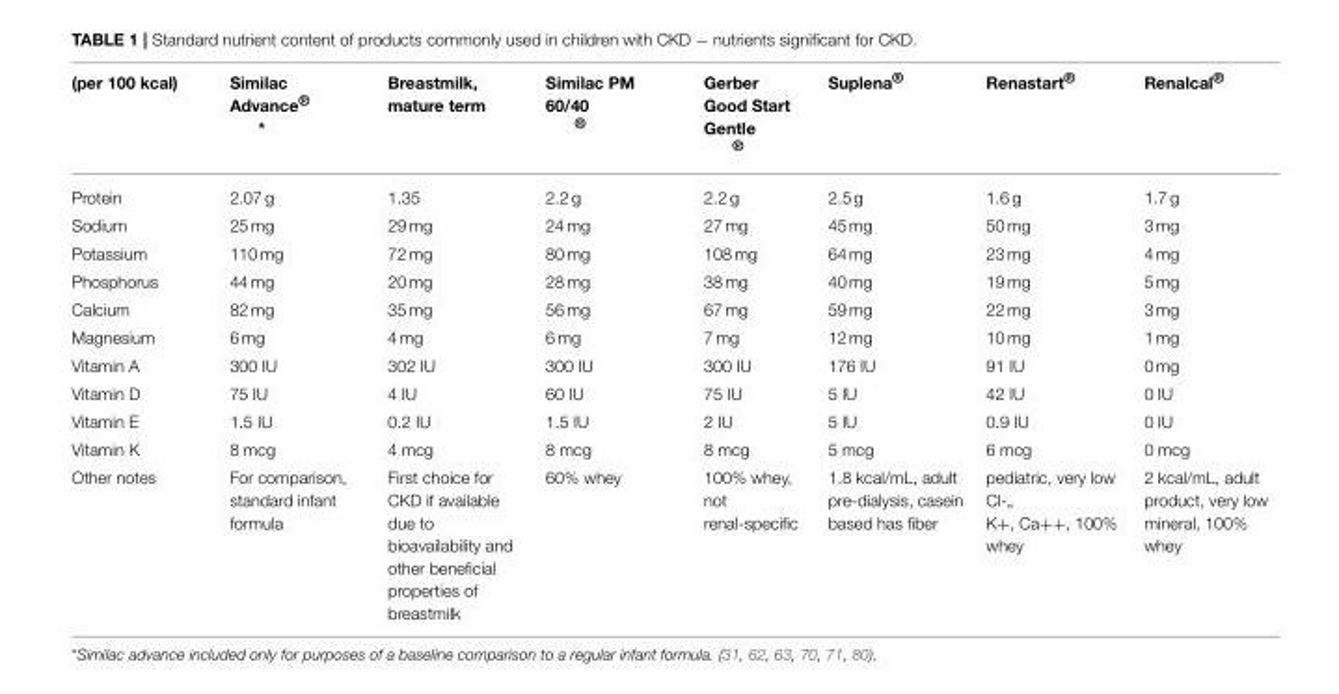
<table><thead><tr><td>(per 100 kcal)</td><td>Similac Advance® *</td><td>Breastmilk, mature term</td><td>Similac PM 60/40 ®</td><td>Gerber Good Start Gentle ®</td><td>Suplena®</td><td>Renastart®</td><td>Renalcal®</td></tr></thead><tbody><tr><td>Protein</td><td>2.07 g</td><td>1.35</td><td>2.2 g</td><td>2.2 g</td><td>2.5 g</td><td>1.6 g</td><td>1.7 g</td></tr><tr><td>Sodium</td><td>25 mg</td><td>29 mg</td><td>24 mg</td><td>27 mg</td><td>45 mg</td><td>50 mg</td><td>3 mg</td></tr><tr><td>Potassium</td><td>110 mg</td><td>72 mg</td><td>80 mg</td><td>108 mg</td><td>64 mg</td><td>23 mg</td><td>4 mg</td></tr><tr><td>Phosphorus</td><td>44 mg</td><td>20 mg</td><td>28 mg</td><td>38 mg</td><td>40 mg</td><td>19 mg</td><td>5 mg</td></tr><tr><td>Calcium</td><td>82 mg</td><td>35 mg</td><td>56 mg</td><td>67 mg</td><td>59 mg</td><td>22 mg</td><td>3 mg</td></tr><tr><td>Magnesium</td><td>6 mg</td><td>4 mg</td><td>6 mg</td><td>7 mg</td><td>12 mg</td><td>10 mg</td><td>1 mg</td></tr><tr><td>Vitamin A</td><td>300 IU</td><td>302 IU</td><td>300 IU</td><td>300 IU</td><td>176 IU</td><td>91 IU</td><td>0 mg</td></tr><tr><td>Vitamin D</td><td>75 IU</td><td>4 IU</td><td>60 IU</td><td>75 IU</td><td>5 IU</td><td>42 IU</td><td>0 IU</td></tr><tr><td>Vitamin E</td><td>1.5 IU</td><td>0.2 IU</td><td>1.5 IU</td><td>2 IU</td><td>5 IU</td><td>0.9 IU</td><td>0 IU</td></tr><tr><td>Vitamin K</td><td>8 mcg</td><td>4 mcg</td><td>8 mcg</td><td>8 mcg</td><td>5 mcg</td><td>6 mcg</td><td>0 mcg</td></tr><tr><td>Other notes</td><td>For comparison, standard infant formula</td><td>First choice for CKD if available due to bioavailability and other beneficial properties of breastmilk</td><td>60% whey</td><td>100% whey, not renal-specific</td><td>1.8 kcal/mL, adult pre-dialysis, casein based has fiber</td><td>pediatric, very low Cl-„ K+, Ca++, 100% whey</td><td>2 kcal/mL, adult product, very low mineral, 100% whey</td></tr></tbody></table>